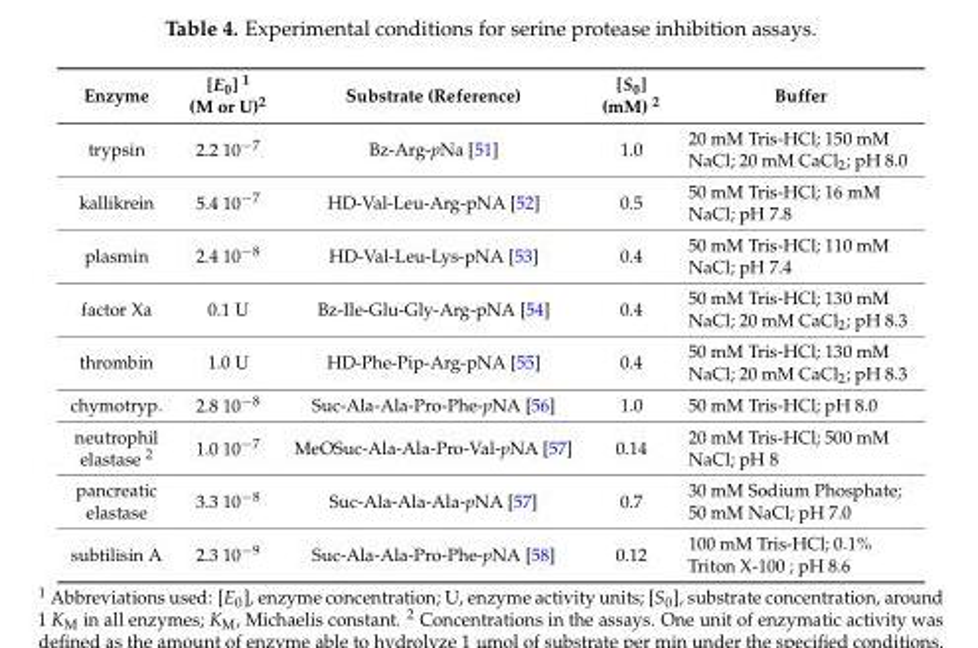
<table><thead><tr><td>Enzyme</td><td>[E<sub>0</sub>] <sup>1</sup> (M or U)<sup>2</sup></td><td>Substrate (Reference)</td><td>[S<sub>0</sub>] (mM) <sup>2</sup></td><td>Buffer</td></tr></thead><tbody><tr><td>trypsin</td><td>2.2 10<sup>−7</sup></td><td>Bz-Arg-pNa [51]</td><td>1.0</td><td>20 mM Tris-HCl; 150 mM NaCl; 20 mM CaCl<sub>2</sub>; pH 8.0</td></tr><tr><td>kallikrein</td><td>5.4 10<sup>−7</sup></td><td>HD-Val-Leu-Arg-pNA [52]</td><td>0.5</td><td>50 mM Tris-HCl; 16 mM NaCl; pH 7.8</td></tr><tr><td>plasmin</td><td>2.4 10<sup>−8</sup></td><td>HD-Val-Leu-Lys-pNA [53]</td><td>0.4</td><td>50 mM Tris-HCl; 110 mM NaCl; pH 7.4</td></tr><tr><td>factor Xa</td><td>0.1 U</td><td>Bz-Ile-Glu-Gly-Arg-pNA [54]</td><td>0.4</td><td>50 mM Tris-HCl; 130 mM NaCl; 20 mM CaCl<sub>2</sub>; pH 8.3</td></tr><tr><td>thrombin</td><td>1.0 U</td><td>HD-Phe-Pip-Arg-pNA [55]</td><td>0.4</td><td>50 mM Tris-HCl; 130 mM NaCl; 20 mM CaCl<sub>2</sub>; pH 8.3</td></tr><tr><td>chymotryp.</td><td>2.8 10<sup>−8</sup></td><td>Suc-Ala-Ala-Pro-Phe-pNA [56]</td><td>1.0</td><td>50 mM Tris-HCl; pH 8.0</td></tr><tr><td>neutrophil elastase <sup>2</sup></td><td>1.0 10<sup>−7</sup></td><td>MeOSuc-Ala-Ala-Pro-Val-pNA [57]</td><td>0.14</td><td>20 mM Tris-HCl; 500 mM NaCl; pH 8</td></tr><tr><td>pancreatic elastase</td><td>3.3 10<sup>−8</sup></td><td>Suc-Ala-Ala-Ala-pNA [57]</td><td>0.7</td><td>30 mM Sodium Phosphate; 50 mM NaCl; pH 7.0</td></tr><tr><td>subtilisin A</td><td>2.3 10<sup>−9</sup></td><td>Suc-Ala-Ala-Pro-Phe-pNA [58]</td><td>0.12</td><td>100 mM Tris-HCl; 0.1% Triton X-100 ; pH 8.6</td></tr></tbody></table>